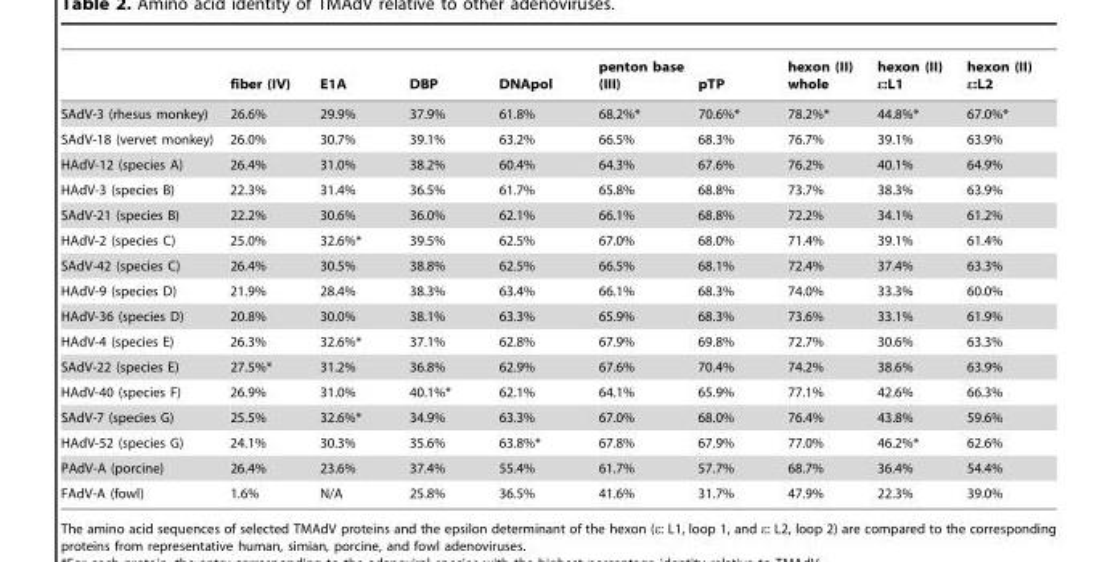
<table><thead><tr><td></td><td>fiber (IV)</td><td>E1A</td><td>DBP</td><td>DNApol</td><td>penton base (III)</td><td>pTP</td><td>hexon (II) whole</td><td>hexon (II) ε:L1</td><td>hexon (II) ε:L2</td></tr></thead><tbody><tr><td>SAdV-3 (rhesus monkey)</td><td>26.6%</td><td>29.9%</td><td>37.9%</td><td>61.8%</td><td>68.2%*</td><td>70.6%*</td><td>78.2%*</td><td>44.8%*</td><td>67.0%*</td></tr><tr><td>SAdV-18 (vervet monkey)</td><td>26.0%</td><td>30.7%</td><td>39.1%</td><td>63.2%</td><td>66.5%</td><td>68.3%</td><td>76.7%</td><td>39.1%</td><td>63.9%</td></tr><tr><td>HAdV-12 (species A)</td><td>26.4%</td><td>31.0%</td><td>38.2%</td><td>60.4%</td><td>64.3%</td><td>67.6%</td><td>76.2%</td><td>40.1%</td><td>64.9%</td></tr><tr><td>HAdV-3 (species B)</td><td>22.3%</td><td>31.4%</td><td>36.5%</td><td>61.7%</td><td>65.8%</td><td>68.8%</td><td>73.7%</td><td>38.3%</td><td>63.9%</td></tr><tr><td>SAdV-21 (species B)</td><td>22.2%</td><td>30.6%</td><td>36.0%</td><td>62.1%</td><td>66.1%</td><td>68.8%</td><td>72.2%</td><td>34.1%</td><td>61.2%</td></tr><tr><td>HAdV-2 (species C)</td><td>25.0%</td><td>32.6%*</td><td>39.5%</td><td>62.5%</td><td>67.0%</td><td>68.0%</td><td>71.4%</td><td>39.1%</td><td>61.4%</td></tr><tr><td>SAdV-42 (species C)</td><td>26.4%</td><td>30.5%</td><td>38.8%</td><td>62.5%</td><td>66.5%</td><td>68.1%</td><td>72.4%</td><td>37.4%</td><td>63.3%</td></tr><tr><td>HAdV-9 (species D)</td><td>21.9%</td><td>28.4%</td><td>38.3%</td><td>63.4%</td><td>66.1%</td><td>68.3%</td><td>74.0%</td><td>33.3%</td><td>60.0%</td></tr><tr><td>HAdV-36 (species D)</td><td>20.8%</td><td>30.0%</td><td>38.1%</td><td>63.3%</td><td>65.9%</td><td>68.3%</td><td>73.6%</td><td>33.1%</td><td>61.9%</td></tr><tr><td>HAdV-4 (species E)</td><td>26.3%</td><td>32.6%*</td><td>37.1%</td><td>62.8%</td><td>67.9%</td><td>69.8%</td><td>72.7%</td><td>30.6%</td><td>63.3%</td></tr><tr><td>SAdV-22 (species E)</td><td>27.5%*</td><td>31.2%</td><td>36.8%</td><td>62.9%</td><td>67.6%</td><td>70.4%</td><td>74.2%</td><td>38.6%</td><td>63.9%</td></tr><tr><td>HAdV-40 (species F)</td><td>26.9%</td><td>31.0%</td><td>40.1%*</td><td>62.1%</td><td>64.1%</td><td>65.9%</td><td>77.1%</td><td>42.6%</td><td>66.3%</td></tr><tr><td>SAdV-7 (species G)</td><td>25.5%</td><td>32.6%*</td><td>34.9%</td><td>63.3%</td><td>67.0%</td><td>68.0%</td><td>76.4%</td><td>43.8%</td><td>59.6%</td></tr><tr><td>HAdV-52 (species G)</td><td>24.1%</td><td>30.3%</td><td>35.6%</td><td>63.8%*</td><td>67.8%</td><td>67.9%</td><td>77.0%</td><td>46.2%*</td><td>62.6%</td></tr><tr><td>PAdV-A (porcine)</td><td>26.4%</td><td>23.6%</td><td>37.4%</td><td>55.4%</td><td>61.7%</td><td>57.7%</td><td>68.7%</td><td>36.4%</td><td>54.4%</td></tr><tr><td>FAdV-A (fowl)</td><td>1.6%</td><td>N/A</td><td>25.8%</td><td>36.5%</td><td>41.6%</td><td>31.7%</td><td>47.9%</td><td>22.3%</td><td>39.0%</td></tr></tbody></table>